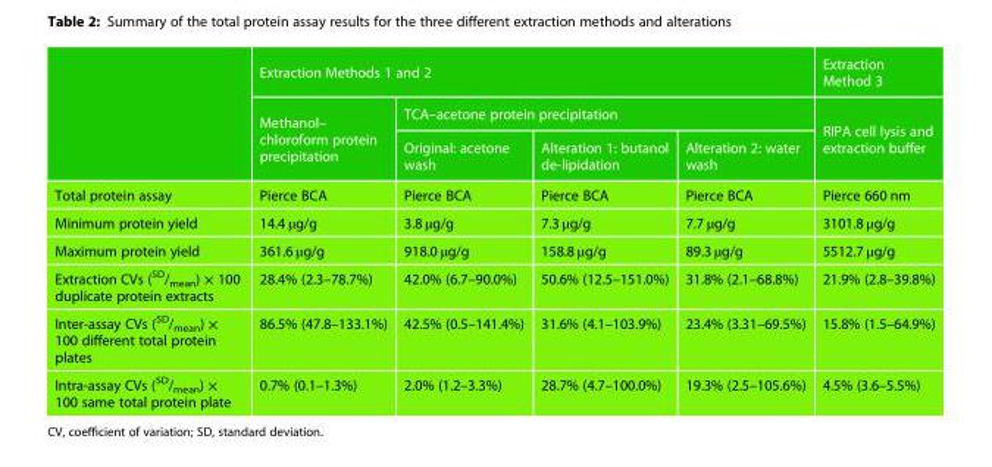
<table><thead><tr><td rowspan="3"></td><td colspan="4">Extraction Methods 1 and 2</td><td rowspan="3">Extraction Method 3 RIPA cell lysis and extraction buffer</td></tr><tr><td rowspan="2">Methanol– chloroform protein precipitation</td><td colspan="3">TCA–acetone protein precipitation</td></tr><tr><td>Original: acetone wash</td><td>Alteration 1: butanol de-lipidation</td><td>Alteration 2: water wash</td></tr></thead><tbody><tr><td>Total protein assay</td><td>Pierce BCA</td><td>Pierce BCA</td><td>Pierce BCA</td><td>Pierce BCA</td><td>Pierce 660 nm</td></tr><tr><td>Minimum protein yield</td><td>14.4 µg/g</td><td>3.8 µg/g</td><td>7.3 µg/g</td><td>7.7 µg/g</td><td>3101.8 µg/g</td></tr><tr><td>Maximum protein yield</td><td>361.6 µg/g</td><td>918.0 µg/g</td><td>158.8 µg/g</td><td>89.3 µg/g</td><td>5512.7 µg/g</td></tr><tr><td>Extraction CVs (<sup>SD</sup>/<sub>mean</sub>) × 100 duplicate protein extracts</td><td>28.4% (2.3–78.7%)</td><td>42.0% (6.7–90.0%)</td><td>50.6% (12.5–151.0%)</td><td>31.8% (2.1–68.8%)</td><td>21.9% (2.8–39.8%)</td></tr><tr><td>Inter-assay CVs (<sup>SD</sup>/<sub>mean</sub>) × 100 different total protein plates</td><td>86.5% (47.8–133.1%)</td><td>42.5% (0.5–141.4%)</td><td>31.6% (4.1–103.9%)</td><td>23.4% (3.31–69.5%)</td><td>15.8% (1.5–64.9%)</td></tr><tr><td>Intra-assay CVs (<sup>SD</sup>/<sub>mean</sub>) × 100 same total protein plate</td><td>0.7% (0.1–1.3%)</td><td>2.0% (1.2–3.3%)</td><td>28.7% (4.7–100.0%)</td><td>19.3% (2.5–105.6%)</td><td>4.5% (3.6–5.5%)</td></tr></tbody></table>